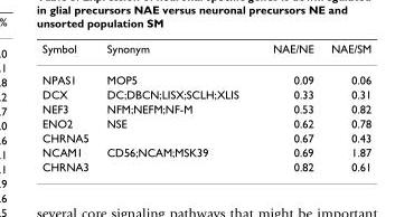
<table><thead><tr><td>Symbol</td><td>Synonym</td><td>NAE/NE</td><td>NAE/SM</td></tr></thead><tbody><tr><td>NPAS1</td><td>MOP5</td><td>0.09</td><td>0.06</td></tr><tr><td>DCX</td><td>DC;DBCN;LISX;SCLH;XLIS</td><td>0.33</td><td>0.31</td></tr><tr><td>NEF3</td><td>NFM;NEFM;NF-M</td><td>0.53</td><td>0.82</td></tr><tr><td>ENO2</td><td>NSE</td><td>0.62</td><td>0.78</td></tr><tr><td>CHRNA5</td><td></td><td>0.67</td><td>0.43</td></tr><tr><td>NCAM1</td><td>CD56;NCAM;MSK39</td><td>0.69</td><td>1.87</td></tr><tr><td>CHRNA3</td><td></td><td>0.82</td><td>0.61</td></tr></tbody></table>